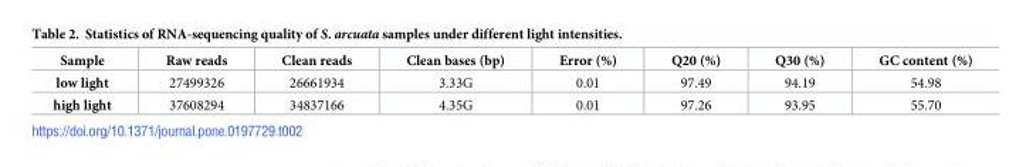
<table><thead><tr><td>Sample</td><td>Raw reads</td><td>Clean reads</td><td>Clean bases (bp)</td><td>Error (%)</td><td>Q20 (%)</td><td>Q30 (%)</td><td>GC content (%)</td></tr></thead><tbody><tr><td>low light</td><td>27499326</td><td>26661934</td><td>3.33G</td><td>0.01</td><td>97.49</td><td>94.19</td><td>54.98</td></tr><tr><td>high light</td><td>37608294</td><td>34837166</td><td>4.35G</td><td>0.01</td><td>97.26</td><td>93.95</td><td>55.70</td></tr></tbody></table>